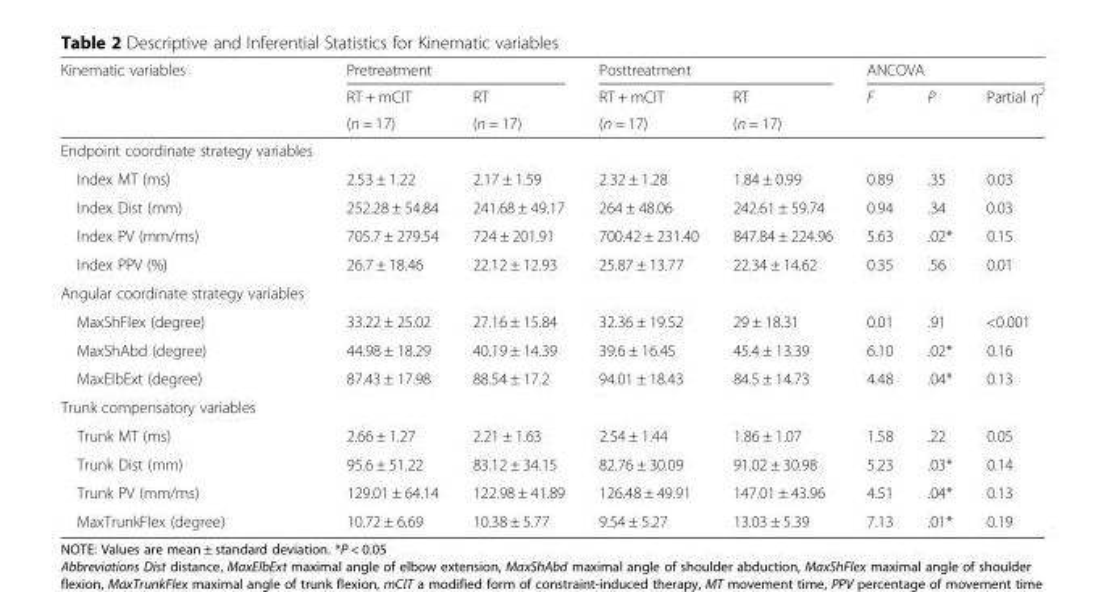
<table><thead><tr><td rowspan="3">Kinematic variables</td><td colspan="2">Pretreatment</td><td colspan="2">Posttreatment</td><td colspan="3">ANCOVA</td></tr><tr><td rowspan="2">RT + mCIT (n = 17)</td><td rowspan="2">RT (n = 17)</td><td rowspan="2">RT + mCIT (n = 17)</td><td rowspan="2">RT (n = 17)</td><td rowspan="2">F</td><td rowspan="2">P</td><td rowspan="2">Partial η<sup>2</sup></td></tr><tr></tr></thead><tbody><tr><td colspan="8">Endpoint coordinate strategy variables</td></tr><tr><td>Index MT (ms)</td><td>2.53 ± 1.22</td><td>2.17 ± 1.59</td><td>2.32 ± 1.28</td><td>1.84 ± 0.99</td><td>0.89</td><td>.35</td><td>0.03</td></tr><tr><td>Index Dist (mm)</td><td>252.28 ± 54.84</td><td>241.68 ± 49.17</td><td>264 ± 48.06</td><td>242.61 ± 59.74</td><td>0.94</td><td>.34</td><td>0.03</td></tr><tr><td>Index PV (mm/ms)</td><td>705.7 ± 279.54</td><td>724 ± 201.91</td><td>700.42 ± 231.40</td><td>847.84 ± 224.96</td><td>5.63</td><td>.02*</td><td>0.15</td></tr><tr><td>Index PPV (%)</td><td>26.7 ± 18.46</td><td>22.12 ± 12.93</td><td>25.87 ± 13.77</td><td>22.34 ± 14.62</td><td>0.35</td><td>.56</td><td>0.01</td></tr><tr><td colspan="8">Angular coordinate strategy variables</td></tr><tr><td>MaxShFlex (degree)</td><td>33.22 ± 25.02</td><td>27.16 ± 15.84</td><td>32.36 ± 19.52</td><td>29 ± 18.31</td><td>0.01</td><td>.91</td><td>&lt;0.001</td></tr><tr><td>MaxShAbd (degree)</td><td>44.98 ± 18.29</td><td>40.19 ± 14.39</td><td>39.6 ± 16.45</td><td>45.4 ± 13.39</td><td>6.10</td><td>.02*</td><td>0.16</td></tr><tr><td>MaxElbExt (degree)</td><td>87.43 ± 17.98</td><td>88.54 ± 17.2</td><td>94.01 ± 18.43</td><td>84.5 ± 14.73</td><td>4.48</td><td>.04*</td><td>0.13</td></tr><tr><td colspan="8">Trunk compensatory variables</td></tr><tr><td>Trunk MT (ms)</td><td>2.66 ± 1.27</td><td>2.21 ± 1.63</td><td>2.54 ± 1.44</td><td>1.86 ± 1.07</td><td>1.58</td><td>.22</td><td>0.05</td></tr><tr><td>Trunk Dist (mm)</td><td>95.6 ± 51.22</td><td>83.12 ± 34.15</td><td>82.76 ± 30.09</td><td>91.02 ± 30.98</td><td>5.23</td><td>.03*</td><td>0.14</td></tr><tr><td>Trunk PV (mm/ms)</td><td>129.01 ± 64.14</td><td>122.98 ± 41.89</td><td>126.48 ± 49.91</td><td>147.01 ± 43.96</td><td>4.51</td><td>.04*</td><td>0.13</td></tr><tr><td>MaxTrunkFlex (degree)</td><td>10.72 ± 6.69</td><td>10.38 ± 5.77</td><td>9.54 ± 5.27</td><td>13.03 ± 5.39</td><td>7.13</td><td>.01*</td><td>0.19</td></tr></tbody></table>